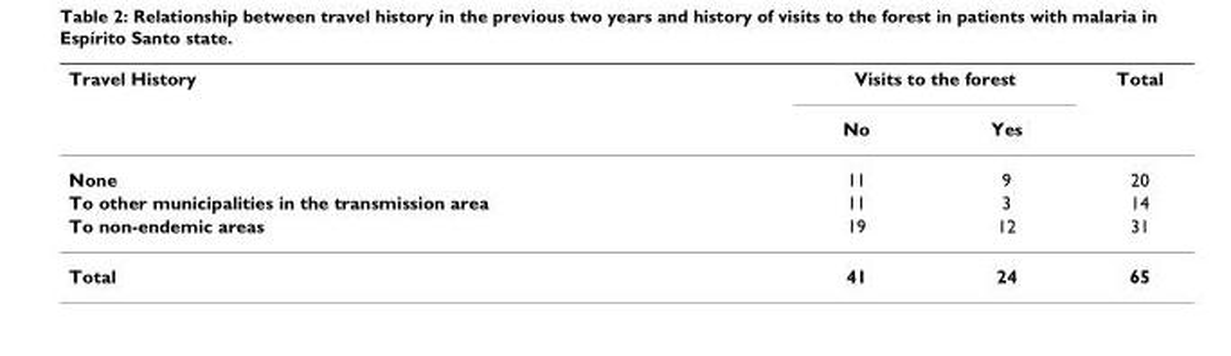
<table><thead><tr><td rowspan="2">Travel History</td><td colspan="2">Visits to the forest</td><td rowspan="2">Total</td></tr><tr><td>No</td><td>Yes</td></tr></thead><tbody><tr><td>None</td><td>11</td><td>9</td><td>20</td></tr><tr><td>To other municipalities in the transmission area</td><td>11</td><td>3</td><td>14</td></tr><tr><td>To non-endemic areas</td><td>19</td><td>12</td><td>31</td></tr><tr><td>Total</td><td>41</td><td>24</td><td>65</td></tr></tbody></table>